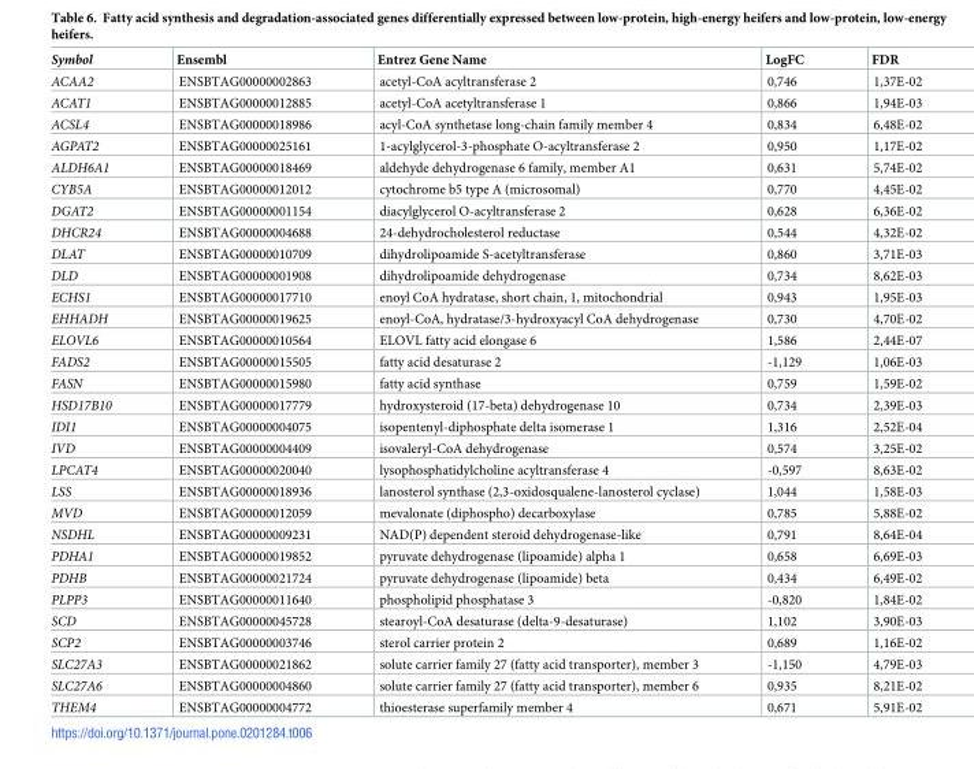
<table><thead><tr><td>Symbol</td><td>Ensembl</td><td>Entrez Gene Name</td><td>LogFC</td><td>FDR</td></tr></thead><tbody><tr><td>ACAA2</td><td>ENSBTAG00000002863</td><td>acetyl-CoA acyltransferase 2</td><td>0,746</td><td>1,37E-02</td></tr><tr><td>ACAT1</td><td>ENSBTAG00000012885</td><td>acetyl-CoA acetyltransferase 1</td><td>0,866</td><td>1,94E-03</td></tr><tr><td>ACSL4</td><td>ENSBTAG00000018986</td><td>acyl-CoA synthetase long-chain family member 4</td><td>0,834</td><td>6,48E-02</td></tr><tr><td>AGPAT2</td><td>ENSBTAG00000025161</td><td>1-acylglycerol-3-phosphate O-acyltransferase 2</td><td>0,950</td><td>1,17E-02</td></tr><tr><td>ALDH6A1</td><td>ENSBTAG00000018469</td><td>aldehyde dehydrogenase 6 family, member A1</td><td>0,631</td><td>5,74E-02</td></tr><tr><td>CYB5A</td><td>ENSBTAG00000012012</td><td>cytochrome b5 type A (microsomal)</td><td>0,770</td><td>4,45E-02</td></tr><tr><td>DGAT2</td><td>ENSBTAG00000001154</td><td>diacylglycerol O-acyltransferase 2</td><td>0,628</td><td>6,36E-02</td></tr><tr><td>DHCR24</td><td>ENSBTAG00000004688</td><td>24-dehydrocholesterol reductase</td><td>0,544</td><td>4,32E-02</td></tr><tr><td>DLAT</td><td>ENSBTAG00000010709</td><td>dihydrolipoamide S-acetyltransferase</td><td>0,860</td><td>3,71E-03</td></tr><tr><td>DLD</td><td>ENSBTAG00000001908</td><td>dihydrolipoamide dehydrogenase</td><td>0,734</td><td>8,62E-03</td></tr><tr><td>ECHS1</td><td>ENSBTAG00000017710</td><td>enoyl CoA hydratase, short chain, 1, mitochondrial</td><td>0,943</td><td>1,95E-03</td></tr><tr><td>EHHADH</td><td>ENSBTAG00000019625</td><td>enoyl-CoA, hydratase/3-hydroxyacyl CoA dehydrogenase</td><td>0,730</td><td>4,70E-02</td></tr><tr><td>ELOVL6</td><td>ENSBTAG00000010564</td><td>ELOVL fatty acid elongase 6</td><td>1,586</td><td>2,44E-07</td></tr><tr><td>FADS2</td><td>ENSBTAG00000015505</td><td>fatty acid desaturase 2</td><td>-1,129</td><td>1,06E-03</td></tr><tr><td>FASN</td><td>ENSBTAG00000015980</td><td>fatty acid synthase</td><td>0,759</td><td>1,59E-02</td></tr><tr><td>HSD17B10</td><td>ENSBTAG00000017779</td><td>hydroxysteroid (17-beta) dehydrogenase 10</td><td>0,734</td><td>2,39E-03</td></tr><tr><td>IDI1</td><td>ENSBTAG00000004075</td><td>isopentenyl-diphosphate delta isomerase 1</td><td>1,316</td><td>2,52E-04</td></tr><tr><td>IVD</td><td>ENSBTAG00000004409</td><td>isovaleryl-CoA dehydrogenase</td><td>0,574</td><td>3,25E-02</td></tr><tr><td>LPCAT4</td><td>ENSBTAG00000020040</td><td>lysophosphatidylcholine acyltransferase 4</td><td>-0,597</td><td>8,63E-02</td></tr><tr><td>LSS</td><td>ENSBTAG00000018936</td><td>lanosterol synthase (2,3-oxidosqualene-lanosterol cyclase)</td><td>1,044</td><td>1,58E-03</td></tr><tr><td>MVD</td><td>ENSBTAG00000012059</td><td>mevalonate (diphospho) decarboxylase</td><td>0,785</td><td>5,88E-02</td></tr><tr><td>NSDHL</td><td>ENSBTAG00000009231</td><td>NAD(P) dependent steroid dehydrogenase-like</td><td>0,791</td><td>8,64E-04</td></tr><tr><td>PDHA1</td><td>ENSBTAG00000019852</td><td>pyruvate dehydrogenase (lipoamide) alpha 1</td><td>0,658</td><td>6,69E-03</td></tr><tr><td>PDHB</td><td>ENSBTAG00000021724</td><td>pyruvate dehydrogenase (lipoamide) beta</td><td>0,434</td><td>6,49E-02</td></tr><tr><td>PLPP3</td><td>ENSBTAG00000011640</td><td>phospholipid phosphatase 3</td><td>-0,820</td><td>1,84E-02</td></tr><tr><td>SCD</td><td>ENSBTAG00000045728</td><td>stearoyl-CoA desaturase (delta-9-desaturase)</td><td>1,102</td><td>3,90E-03</td></tr><tr><td>SCP2</td><td>ENSBTAG00000003746</td><td>sterol carrier protein 2</td><td>0,689</td><td>1,16E-02</td></tr><tr><td>SLC27A3</td><td>ENSBTAG00000021862</td><td>solute carrier family 27 (fatty acid transporter), member 3</td><td>-1,150</td><td>4,79E-03</td></tr><tr><td>SLC27A6</td><td>ENSBTAG00000004860</td><td>solute carrier family 27 (fatty acid transporter), member 6</td><td>0,935</td><td>8,21E-02</td></tr><tr><td>THEM4</td><td>ENSBTAG00000004772</td><td>thioesterase superfamily member 4</td><td>0,671</td><td>5,91E-02</td></tr></tbody></table>